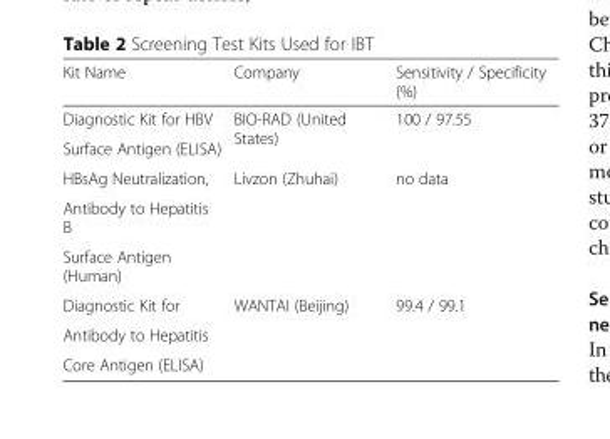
<table><thead><tr><td>Kit Name</td><td>Company</td><td>Sensitivity / Specificity (%)</td></tr></thead><tbody><tr><td>Diagnostic Kit for HBV</td><td rowspan="2">BIO-RAD (United States)</td><td rowspan="2">100 / 97.55</td></tr><tr><td>Surface Antigen (ELISA)</td></tr><tr><td>HBsAg Neutralization,</td><td rowspan="3">Livzon (Zhuhai)</td><td rowspan="3">no data</td></tr><tr><td>Antibody to Hepatitis B</td></tr><tr><td>Surface Antigen (Human)</td></tr><tr><td>Diagnostic Kit for</td><td rowspan="3">WANTAI (Beijing)</td><td rowspan="3">99.4 / 99.1</td></tr><tr><td>Antibody to Hepatitis</td></tr><tr><td>Core Antigen (ELISA)</td></tr></tbody></table>